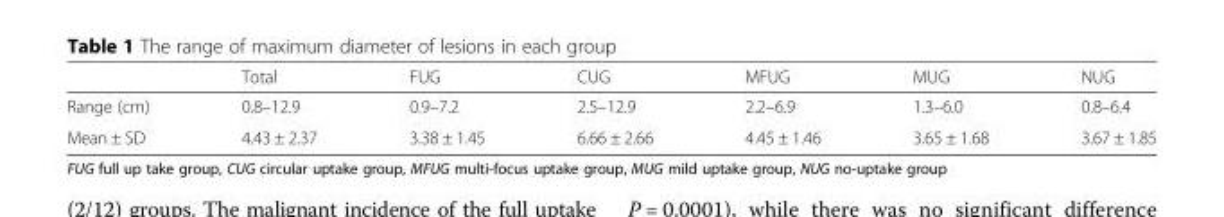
<table><thead><tr><td></td><td>Total</td><td>FUG</td><td>CUG</td><td>MFUG</td><td>MUG</td><td>NUG</td></tr></thead><tbody><tr><td>Range (cm)</td><td>0.8–12.9</td><td>0.9–7.2</td><td>2.5–12.9</td><td>2.2–6.9</td><td>1.3–6.0</td><td>0.8–6.4</td></tr><tr><td>Mean ± SD</td><td>4.43 ± 2.37</td><td>3.38 ± 1.45</td><td>6.66 ± 2.66</td><td>4.45 ± 1.46</td><td>3.65 ± 1.68</td><td>3.67 ± 1.85</td></tr></tbody></table>